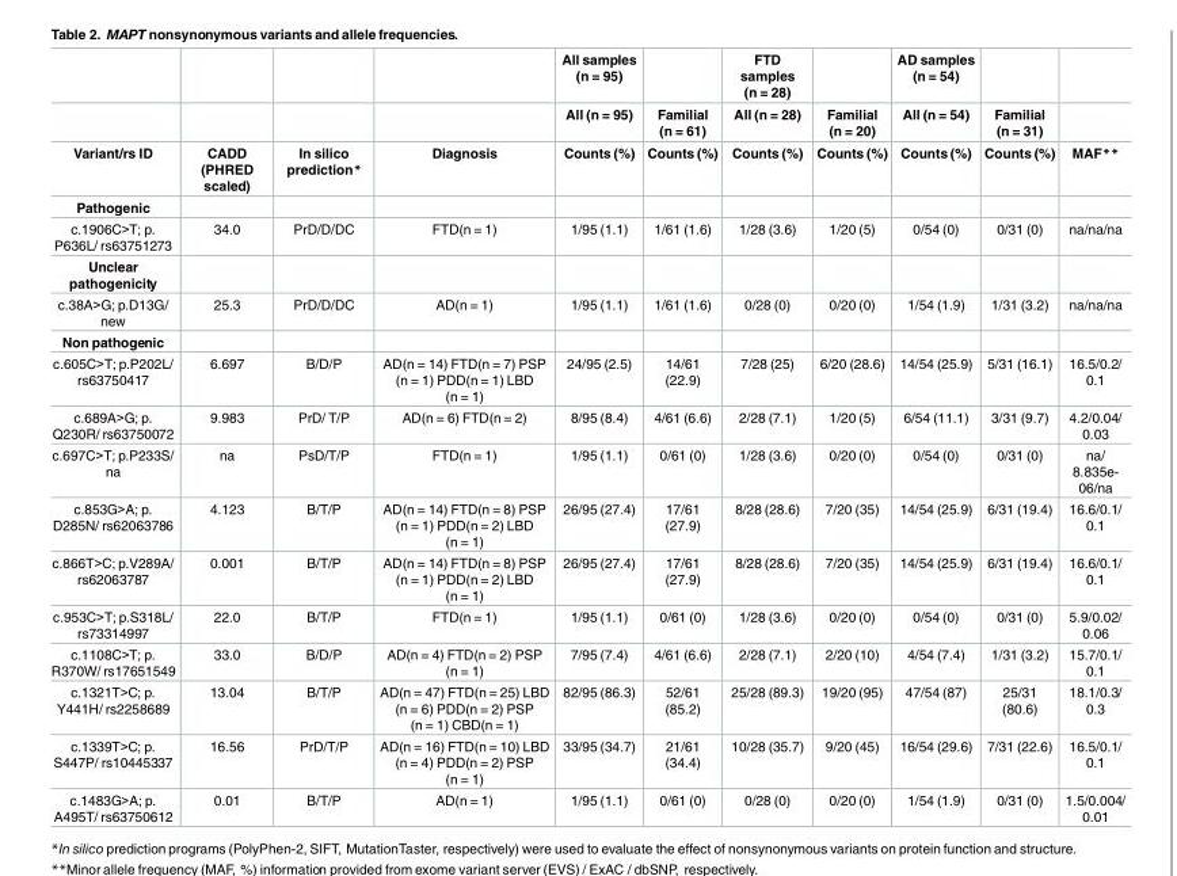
<table><thead><tr><td rowspan="3">Variant/rs ID</td><td rowspan="3">CADD (PHRED scaled)</td><td rowspan="3">In silico prediction*</td><td rowspan="3">Diagnosis</td><td rowspan="3">All samples (n = 95) All (n = 95) Counts (%)</td><td rowspan="3">Familial (n = 61) Counts (%)</td><td rowspan="3">FTD samples (n = 28) All (n = 28) Counts (%)</td><td rowspan="3">Familial (n = 20) Counts (%)</td><td rowspan="3">AD samples (n = 54) All (n = 54) Counts (%)</td><td rowspan="3">Familial (n = 31) Counts (%)</td><td rowspan="3">MAF**</td></tr><tr></tr><tr></tr></thead><tbody><tr><td colspan="11">Pathogenic</td></tr><tr><td>c.1906C&gt;T; p. P636L/ rs63751273</td><td>34.0</td><td>PrD/D/DC</td><td>FTD(n = 1)</td><td>1/95 (1.1)</td><td>1/61 (1.6)</td><td>1/28 (3.6)</td><td>1/20 (5)</td><td>0/54 (0)</td><td>0/31 (0)</td><td>na/na/na</td></tr><tr><td colspan="11">Unclear pathogenicity</td></tr><tr><td>c.38A&gt;G; p.D13G/ new</td><td>25.3</td><td>PrD/D/DC</td><td>AD(n = 1)</td><td>1/95 (1.1)</td><td>1/61 (1.6)</td><td>0/28 (0)</td><td>0/20 (0)</td><td>1/54 (1.9)</td><td>1/31 (3.2)</td><td>na/na/na</td></tr><tr><td colspan="11">Non pathogenic</td></tr><tr><td>c.605C&gt;T; p.P202L/ rs63750417</td><td>6.697</td><td>B/D/P</td><td>AD(n = 14) FTD(n = 7) PSP (n = 1) PDD(n = 1) LBD (n = 1)</td><td>24/95 (2.5)</td><td>14/61 (22.9)</td><td>7/28 (25)</td><td>6/20 (28.6)</td><td>14/54 (25.9)</td><td>5/31 (16.1)</td><td>16.5/0.2/ 0.1</td></tr><tr><td>c.689A&gt;G; p. Q230R/ rs63750072</td><td>9.983</td><td>PrD/ T/P</td><td>AD(n = 6) FTD(n = 2)</td><td>8/95 (8.4)</td><td>4/61 (6.6)</td><td>2/28 (7.1)</td><td>1/20 (5)</td><td>6/54 (11.1)</td><td>3/31 (9.7)</td><td>4.2/0.04/ 0.03</td></tr><tr><td>c.697C&gt;T; p.P233S/ na</td><td>na</td><td>PsD/T/P</td><td>FTD(n = 1)</td><td>1/95 (1.1)</td><td>0/61 (0)</td><td>1/28 (3.6)</td><td>0/20 (0)</td><td>0/54 (0)</td><td>0/31 (0)</td><td>na/ 8.835e- 06/na</td></tr><tr><td>c.853G&gt;A; p. D285N/ rs62063786</td><td>4.123</td><td>B/T/P</td><td>AD(n = 14) FTD(n = 8) PSP (n = 1) PDD(n = 2) LBD (n = 1)</td><td>26/95 (27.4)</td><td>17/61 (27.9)</td><td>8/28 (28.6)</td><td>7/20 (35)</td><td>14/54 (25.9)</td><td>6/31 (19.4)</td><td>16.6/0.1/ 0.1</td></tr><tr><td>c.866T&gt;C; p.V289A/ rs62063787</td><td>0.001</td><td>B/T/P</td><td>AD(n = 14) FTD(n = 8) PSP (n = 1) PDD(n = 2) LBD (n = 1)</td><td>26/95 (27.4)</td><td>17/61 (27.9)</td><td>8/28 (28.6)</td><td>7/20 (35)</td><td>14/54 (25.9)</td><td>6/31 (19.4)</td><td>16.6/0.1/ 0.1</td></tr><tr><td>c.953C&gt;T; p.S318L/ rs73314997</td><td>22.0</td><td>B/T/P</td><td>FTD(n = 1)</td><td>1/95 (1.1)</td><td>0/61 (0)</td><td>1/28 (3.6)</td><td>0/20 (0)</td><td>0/54 (0)</td><td>0/31 (0)</td><td>5.9/0.02/ 0.06</td></tr><tr><td>c.1108C&gt;T; p. R370W/ rs17651549</td><td>33.0</td><td>B/D/P</td><td>AD(n = 4) FTD(n = 2) PSP (n = 1)</td><td>7/95 (7.4)</td><td>4/61 (6.6)</td><td>2/28 (7.1)</td><td>2/20 (10)</td><td>4/54 (7.4)</td><td>1/31 (3.2)</td><td>15.7/0.1/ 0.1</td></tr><tr><td>c.1321T&gt;C; p. Y441H/ rs2258689</td><td>13.04</td><td>B/T/P</td><td>AD(n = 47) FTD(n = 25) LBD (n = 6) PDD(n = 2) PSP (n = 1) CBD(n = 1)</td><td>82/95 (86.3)</td><td>52/61 (85.2)</td><td>25/28 (89.3)</td><td>19/20 (95)</td><td>47/54 (87)</td><td>25/31 (80.6)</td><td>18.1/0.3/ 0.3</td></tr><tr><td>c.1339T&gt;C; p. S447P/ rs10445337</td><td>16.56</td><td>PrD/T/P</td><td>AD(n = 16) FTD(n = 10) LBD (n = 4) PDD(n = 2) PSP (n = 1)</td><td>33/95 (34.7)</td><td>21/61 (34.4)</td><td>10/28 (35.7)</td><td>9/20 (45)</td><td>16/54 (29.6)</td><td>7/31 (22.6)</td><td>16.5/0.1/ 0.1</td></tr><tr><td>c.1483G&gt;A; p. A495T/ rs63750612</td><td>0.01</td><td>B/T/P</td><td>AD(n = 1)</td><td>1/95 (1.1)</td><td>0/61 (0)</td><td>0/28 (0)</td><td>0/20 (0)</td><td>1/54 (1.9)</td><td>0/31 (0)</td><td>1.5/0.004/ 0.01</td></tr></tbody></table>